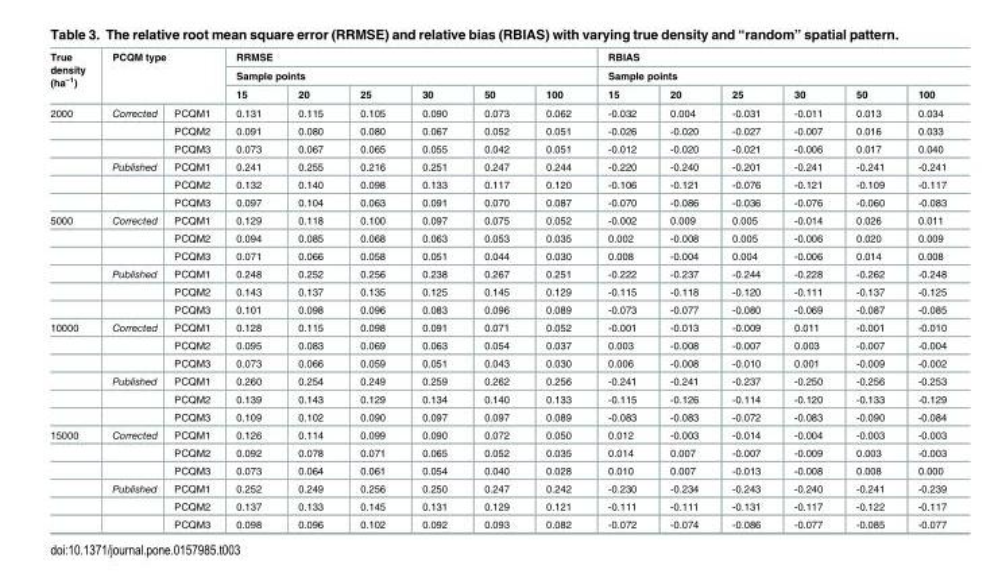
<table><thead><tr><td rowspan="4">True density (ha<sup>–1</sup>) 2000</td><td rowspan="3" colspan="2">PCQM type</td><td rowspan="2" colspan="6">RRMSE Sample points</td><td rowspan="2" colspan="6">RBIAS Sample points</td></tr><tr></tr><tr><td rowspan="2">15 0.131</td><td rowspan="2">20 0.115</td><td rowspan="2">25 0.105</td><td rowspan="2">30 0.090</td><td rowspan="2">50 0.073</td><td rowspan="2">100 0.062</td><td rowspan="2">15 -0.032</td><td rowspan="2">20 0.004</td><td rowspan="2">25 -0.031</td><td rowspan="2">30 -0.011</td><td rowspan="2">50 0.013</td><td rowspan="2">100 0.034</td></tr><tr><td>Corrected</td><td>PCQM1</td></tr></thead><tbody><tr><td></td><td></td><td>PCQM2</td><td>0.091</td><td>0.080</td><td>0.080</td><td>0.067</td><td>0.052</td><td>0.051</td><td>-0.026</td><td>-0.020</td><td>-0.027</td><td>-0.007</td><td>0.016</td><td>0.033</td></tr><tr><td></td><td></td><td>PCQM3</td><td>0.073</td><td>0.067</td><td>0.065</td><td>0.055</td><td>0.042</td><td>0.051</td><td>-0.012</td><td>-0.020</td><td>-0.021</td><td>-0.006</td><td>0.017</td><td>0.040</td></tr><tr><td></td><td>Published</td><td>PCQM1</td><td>0.241</td><td>0.255</td><td>0.216</td><td>0.251</td><td>0.247</td><td>0.244</td><td>-0.220</td><td>-0.240</td><td>-0.201</td><td>-0.241</td><td>-0.241</td><td>-0.241</td></tr><tr><td></td><td></td><td>PCQM2</td><td>0.132</td><td>0.140</td><td>0.098</td><td>0.133</td><td>0.117</td><td>0.120</td><td>-0.106</td><td>-0.121</td><td>-0.076</td><td>-0.121</td><td>-0.109</td><td>-0.117</td></tr><tr><td></td><td></td><td>PCQM3</td><td>0.097</td><td>0.104</td><td>0.063</td><td>0.091</td><td>0.070</td><td>0.087</td><td>-0.070</td><td>-0.086</td><td>-0.036</td><td>-0.076</td><td>-0.060</td><td>-0.083</td></tr><tr><td rowspan="6">5000</td><td>Corrected</td><td>PCQM1</td><td>0.129</td><td>0.118</td><td>0.100</td><td>0.097</td><td>0.075</td><td>0.052</td><td>-0.002</td><td>0.009</td><td>0.005</td><td>-0.014</td><td>0.026</td><td>0.011</td></tr><tr><td></td><td>PCQM2</td><td>0.094</td><td>0.085</td><td>0.068</td><td>0.063</td><td>0.053</td><td>0.035</td><td>0.002</td><td>-0.008</td><td>0.005</td><td>-0.006</td><td>0.020</td><td>0.009</td></tr><tr><td></td><td>PCQM3</td><td>0.071</td><td>0.066</td><td>0.058</td><td>0.051</td><td>0.044</td><td>0.030</td><td>0.008</td><td>-0.004</td><td>0.004</td><td>-0.006</td><td>0.014</td><td>0.008</td></tr><tr><td>Published</td><td>PCQM1</td><td>0.248</td><td>0.252</td><td>0.256</td><td>0.238</td><td>0.267</td><td>0.251</td><td>-0.222</td><td>-0.237</td><td>-0.244</td><td>-0.228</td><td>-0.262</td><td>-0.248</td></tr><tr><td></td><td>PCQM2</td><td>0.143</td><td>0.137</td><td>0.135</td><td>0.125</td><td>0.145</td><td>0.129</td><td>-0.115</td><td>-0.118</td><td>-0.120</td><td>-0.111</td><td>-0.137</td><td>-0.125</td></tr><tr><td></td><td>PCQM3</td><td>0.101</td><td>0.098</td><td>0.096</td><td>0.083</td><td>0.096</td><td>0.089</td><td>-0.073</td><td>-0.077</td><td>-0.080</td><td>-0.069</td><td>-0.087</td><td>-0.085</td></tr><tr><td rowspan="6">10000</td><td>Corrected</td><td>PCQM1</td><td>0.128</td><td>0.115</td><td>0.098</td><td>0.091</td><td>0.071</td><td>0.052</td><td>-0.001</td><td>-0.013</td><td>-0.009</td><td>0.011</td><td>-0.001</td><td>-0.010</td></tr><tr><td></td><td>PCQM2</td><td>0.095</td><td>0.083</td><td>0.069</td><td>0.063</td><td>0.054</td><td>0.037</td><td>0.003</td><td>-0.008</td><td>-0.007</td><td>0.003</td><td>-0.007</td><td>-0.004</td></tr><tr><td></td><td>PCQM3</td><td>0.073</td><td>0.066</td><td>0.059</td><td>0.051</td><td>0.043</td><td>0.030</td><td>0.006</td><td>-0.008</td><td>-0.010</td><td>0.001</td><td>-0.009</td><td>-0.002</td></tr><tr><td>Published</td><td>PCQM1</td><td>0.260</td><td>0.254</td><td>0.249</td><td>0.259</td><td>0.262</td><td>0.256</td><td>-0.241</td><td>-0.241</td><td>-0.237</td><td>-0.250</td><td>-0.256</td><td>-0.253</td></tr><tr><td></td><td>PCQM2</td><td>0.139</td><td>0.143</td><td>0.129</td><td>0.134</td><td>0.140</td><td>0.133</td><td>-0.115</td><td>-0.126</td><td>-0.114</td><td>-0.120</td><td>-0.133</td><td>-0.129</td></tr><tr><td></td><td>PCQM3</td><td>0.109</td><td>0.102</td><td>0.090</td><td>0.097</td><td>0.097</td><td>0.089</td><td>-0.083</td><td>-0.083</td><td>-0.072</td><td>-0.083</td><td>-0.090</td><td>-0.084</td></tr><tr><td rowspan="6">15000</td><td>Corrected</td><td>PCQM1</td><td>0.126</td><td>0.114</td><td>0.099</td><td>0.090</td><td>0.072</td><td>0.050</td><td>0.012</td><td>-0.003</td><td>-0.014</td><td>-0.004</td><td>-0.003</td><td>-0.003</td></tr><tr><td></td><td>PCQM2</td><td>0.092</td><td>0.078</td><td>0.071</td><td>0.065</td><td>0.052</td><td>0.035</td><td>0.014</td><td>0.007</td><td>-0.007</td><td>-0.009</td><td>0.003</td><td>-0.003</td></tr><tr><td></td><td>PCQM3</td><td>0.073</td><td>0.064</td><td>0.061</td><td>0.054</td><td>0.040</td><td>0.028</td><td>0.010</td><td>0.007</td><td>-0.013</td><td>-0.008</td><td>0.008</td><td>0.000</td></tr><tr><td>Published</td><td>PCQM1</td><td>0.252</td><td>0.249</td><td>0.256</td><td>0.250</td><td>0.247</td><td>0.242</td><td>-0.230</td><td>-0.234</td><td>-0.243</td><td>-0.240</td><td>-0.241</td><td>-0.239</td></tr><tr><td></td><td>PCQM2</td><td>0.137</td><td>0.133</td><td>0.145</td><td>0.131</td><td>0.129</td><td>0.121</td><td>-0.111</td><td>-0.111</td><td>-0.131</td><td>-0.117</td><td>-0.122</td><td>-0.117</td></tr><tr><td></td><td>PCQM3</td><td>0.098</td><td>0.096</td><td>0.102</td><td>0.092</td><td>0.093</td><td>0.082</td><td>-0.072</td><td>-0.074</td><td>-0.086</td><td>-0.077</td><td>-0.085</td><td>-0.077</td></tr></tbody></table>